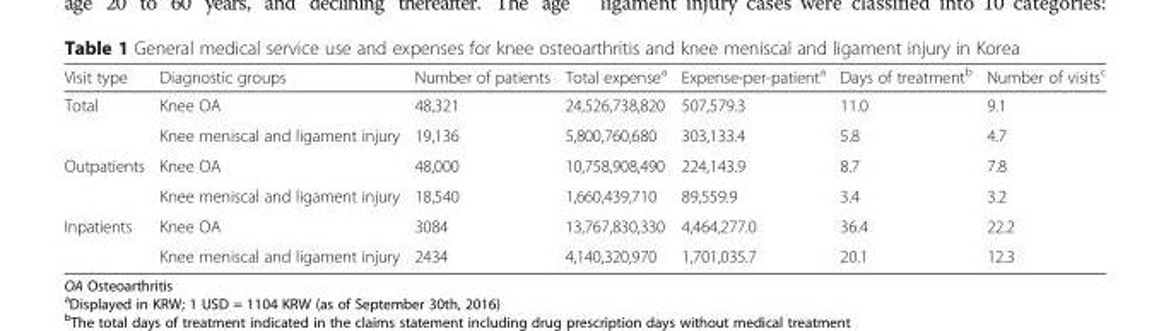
<table><thead><tr><td>Visit type</td><td>Diagnostic groups</td><td>Number of patients</td><td>Total expense<sup>a</sup></td><td>Expense-per-patient<sup>a</sup></td><td>Days of treatment<sup>b</sup></td><td>Number of visits<sup>c</sup></td></tr></thead><tbody><tr><td rowspan="2">Total</td><td>Knee OA</td><td>48,321</td><td>24,526,738,820</td><td>507,579.3</td><td>11.0</td><td>9.1</td></tr><tr><td>Knee meniscal and ligament injury</td><td>19,136</td><td>5,800,760,680</td><td>303,133.4</td><td>5.8</td><td>4.7</td></tr><tr><td rowspan="2">Outpatients</td><td>Knee OA</td><td>48,000</td><td>10,758,908,490</td><td>224,143.9</td><td>8.7</td><td>7.8</td></tr><tr><td>Knee meniscal and ligament injury</td><td>18,540</td><td>1,660,439,710</td><td>89,559.9</td><td>3.4</td><td>3.2</td></tr><tr><td rowspan="2">Inpatients</td><td>Knee OA</td><td>3084</td><td>13,767,830,330</td><td>4,464,277.0</td><td>36.4</td><td>22.2</td></tr><tr><td>Knee meniscal and ligament injury</td><td>2434</td><td>4,140,320,970</td><td>1,701,035.7</td><td>20.1</td><td>12.3</td></tr></tbody></table>